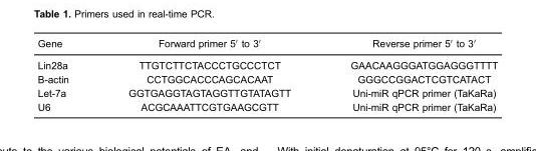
<table><thead><tr><td>Gene</td><td>Forward primer 5′ to 3′</td><td>Reverse primer 5′ to 3′</td></tr></thead><tbody><tr><td>Lin28a</td><td>TTGTCTTCTACCCTGCCCTCT</td><td>GAACAAGGGATGGAGGGTTTT</td></tr><tr><td>B-actin</td><td>CCTGGCACCCAGCACAAT</td><td>GGGCCGGACTCGTCATACT</td></tr><tr><td>Let-7a</td><td>GGTGAGGTAGTAGGTTGTATAGTT</td><td>Uni-miR qPCR primer (TaKaRa)</td></tr><tr><td>U6</td><td>ACGCAAATTCGTGAAGCGTT</td><td>Uni-miR qPCR primer (TaKaRa)</td></tr></tbody></table>